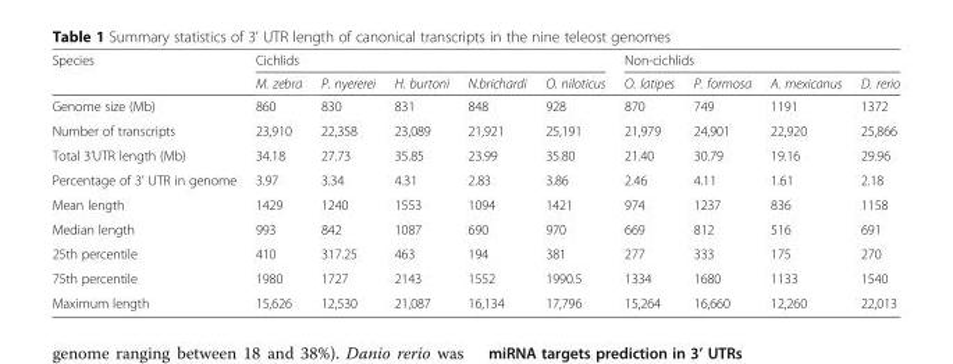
<table><thead><tr><td rowspan="2">Species</td><td colspan="5">Cichlids</td><td colspan="4">Non-cichlids</td></tr><tr><td>M. zebra</td><td>P. nyererei</td><td>H. burtoni</td><td>N.brichardi</td><td>O. niloticus</td><td>O. latipes</td><td>P. formosa</td><td>A. mexicanus</td><td>D. rerio</td></tr></thead><tbody><tr><td>Genome size (Mb)</td><td>860</td><td>830</td><td>831</td><td>848</td><td>928</td><td>870</td><td>749</td><td>1191</td><td>1372</td></tr><tr><td>Number of transcripts</td><td>23,910</td><td>22,358</td><td>23,089</td><td>21,921</td><td>25,191</td><td>21,979</td><td>24,901</td><td>22,920</td><td>25,866</td></tr><tr><td>Total 3’UTR length (Mb)</td><td>34.18</td><td>27.73</td><td>35.85</td><td>23.99</td><td>35.80</td><td>21.40</td><td>30.79</td><td>19.16</td><td>29.96</td></tr><tr><td>Percentage of 3’ UTR in genome</td><td>3.97</td><td>3.34</td><td>4.31</td><td>2.83</td><td>3.86</td><td>2.46</td><td>4.11</td><td>1.61</td><td>2.18</td></tr><tr><td>Mean length</td><td>1429</td><td>1240</td><td>1553</td><td>1094</td><td>1421</td><td>974</td><td>1237</td><td>836</td><td>1158</td></tr><tr><td>Median length</td><td>993</td><td>842</td><td>1087</td><td>690</td><td>970</td><td>669</td><td>812</td><td>516</td><td>691</td></tr><tr><td>25th percentile</td><td>410</td><td>317.25</td><td>463</td><td>194</td><td>381</td><td>277</td><td>333</td><td>175</td><td>270</td></tr><tr><td>75th percentile</td><td>1980</td><td>1727</td><td>2143</td><td>1552</td><td>1990.5</td><td>1334</td><td>1680</td><td>1133</td><td>1540</td></tr><tr><td>Maximum length</td><td>15,626</td><td>12,530</td><td>21,087</td><td>16,134</td><td>17,796</td><td>15,264</td><td>16,660</td><td>12,260</td><td>22,013</td></tr></tbody></table>